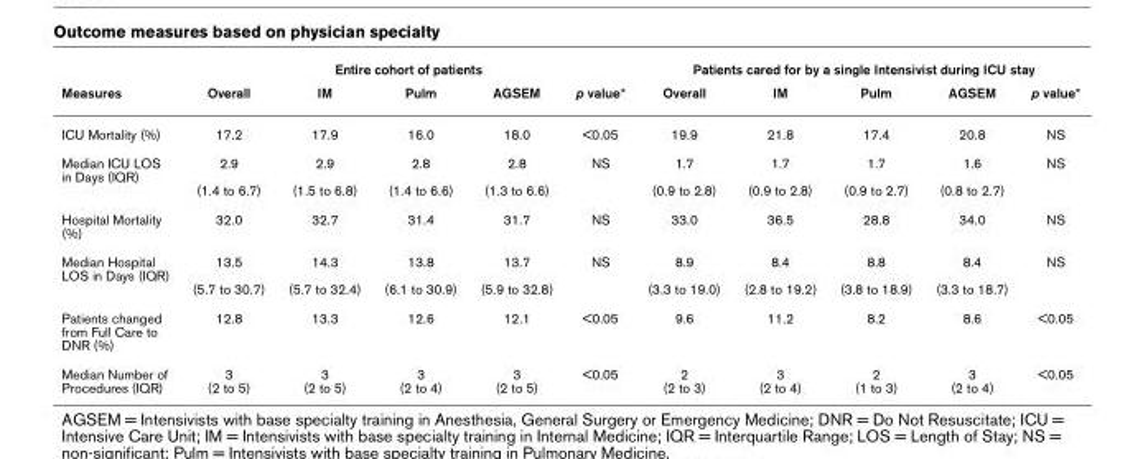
<table><thead><tr><td rowspan="2">Measures</td><td colspan="5">Entire cohort of patients</td><td colspan="5">Patients cared for by a single Intensivist during ICU stay</td></tr><tr><td>Overall</td><td>IM</td><td>Pulm</td><td>AGSEM</td><td>p value*</td><td>Overall</td><td>IM</td><td>Pulm</td><td>AGSEM</td><td>p value*</td></tr></thead><tbody><tr><td>ICU Mortality (%)</td><td>17.2</td><td>17.9</td><td>16.0</td><td>18.0</td><td>&lt;0.05</td><td>19.9</td><td>21.8</td><td>17.4</td><td>20.8</td><td>NS</td></tr><tr><td>Median ICU LOS in Days (IQR)</td><td>2.9 (1.4 to 6.7)</td><td>2.9 (1.5 to 6.8)</td><td>2.8 (1.4 to 6.6)</td><td>2.8 (1.3 to 6.6)</td><td>NS</td><td>1.7 (0.9 to 2.8)</td><td>1.7 (0.9 to 2.8)</td><td>1.7 (0.9 to 2.7)</td><td>1.6 (0.8 to 2.7)</td><td>NS</td></tr><tr><td>Hospital Mortality (%)</td><td>32.0</td><td>32.7</td><td>31.4</td><td>31.7</td><td>NS</td><td>33.0</td><td>36.5</td><td>28.8</td><td>34.0</td><td>NS</td></tr><tr><td>Median Hospital LOS in Days (IQR)</td><td>13.5 (5.7 to 30.7)</td><td>14.3 (5.7 to 32.4)</td><td>13.8 (6.1 to 30.9)</td><td>13.7 (5.9 to 32.8)</td><td>NS</td><td>8.9 (3.3 to 19.0)</td><td>8.4 (2.8 to 19.2)</td><td>8.8 (3.8 to 18.9)</td><td>8.4 (3.3 to 18.7)</td><td>NS</td></tr><tr><td>Patients changed from Full Care to DNR (%)</td><td>12.8</td><td>13.3</td><td>12.6</td><td>12.1</td><td>&lt;0.05</td><td>9.6</td><td>11.2</td><td>8.2</td><td>8.6</td><td>&lt;0.05</td></tr><tr><td>Median Number of Procedures (IQR)</td><td>3 (2 to 5)</td><td>3 (2 to 5)</td><td>3 (2 to 4)</td><td>3 (2 to 5)</td><td>&lt;0.05</td><td>2 (2 to 3)</td><td>3 (2 to 4)</td><td>2 (1 to 3)</td><td>3 (2 to 4)</td><td>&lt;0.05</td></tr></tbody></table>